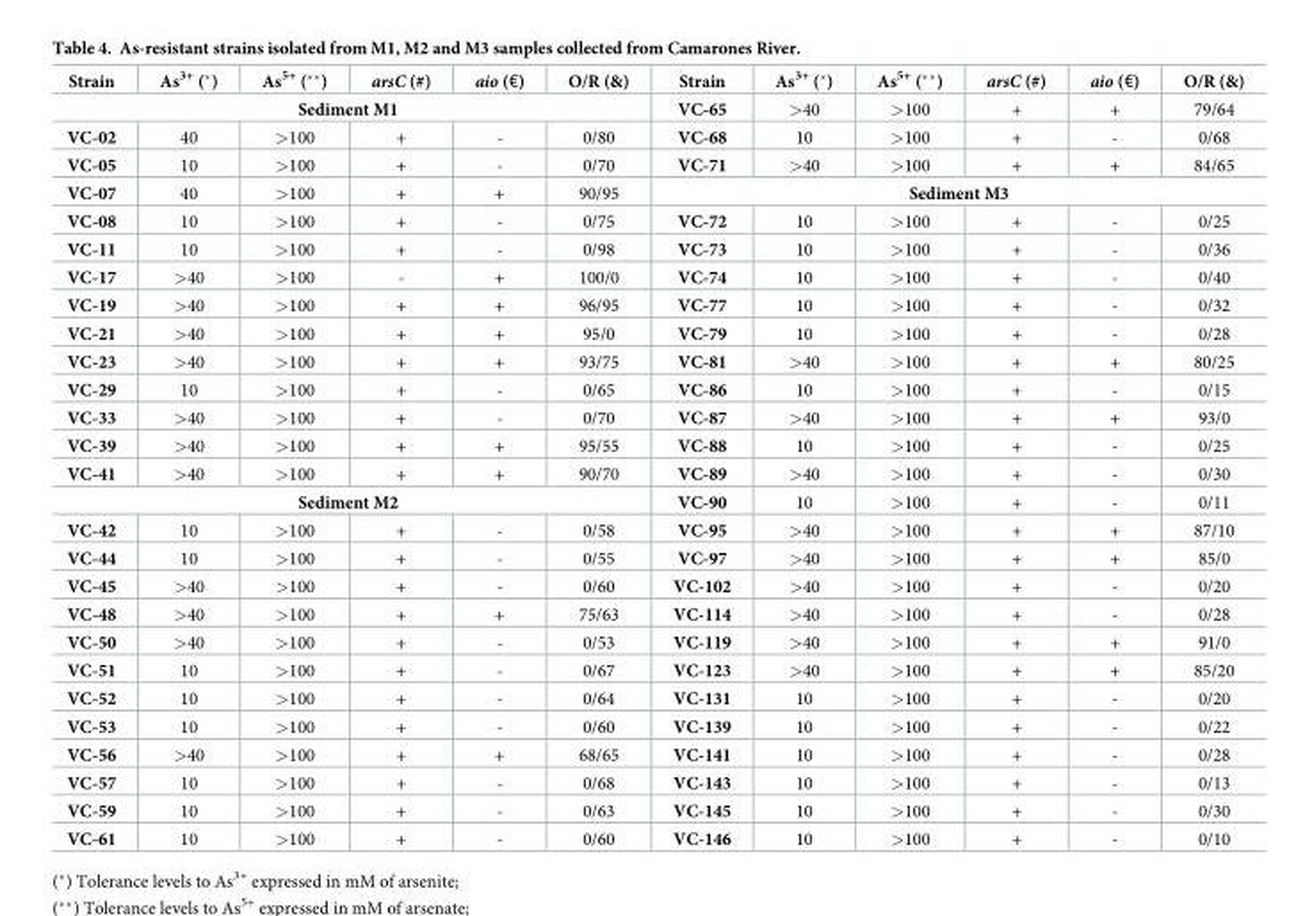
<table><thead><tr><td>Strain</td><td>As<sup>3+</sup> (*)</td><td>As<sup>5+</sup> (**)</td><td>arsC (#)</td><td>aio (€)</td><td>O/R (&amp;)</td><td>Strain</td><td>As<sup>3+</sup> (*)</td><td>As<sup>5+</sup> (**)</td><td>arsC (#)</td><td>aio (€)</td><td>O/R (&amp;)</td></tr></thead><tbody><tr><td colspan="6">Sediment M1</td><td>VC-65</td><td>&gt;40</td><td>&gt;100</td><td>+</td><td>+</td><td>79/64</td></tr><tr><td>VC-02</td><td>40</td><td>&gt;100</td><td>+</td><td>-</td><td>0/80</td><td>VC-68</td><td>10</td><td>&gt;100</td><td>+</td><td>-</td><td>0/68</td></tr><tr><td>VC-05</td><td>10</td><td>&gt;100</td><td>+</td><td>-</td><td>0/70</td><td>VC-71</td><td>&gt;40</td><td>&gt;100</td><td>+</td><td>+</td><td>84/65</td></tr><tr><td>VC-07</td><td>40</td><td>&gt;100</td><td>+</td><td>+</td><td>90/95</td><td colspan="6">Sediment M3</td></tr><tr><td>VC-08</td><td>10</td><td>&gt;100</td><td>+</td><td>-</td><td>0/75</td><td>VC-72</td><td>10</td><td>&gt;100</td><td>+</td><td>-</td><td>0/25</td></tr><tr><td>VC-11</td><td>10</td><td>&gt;100</td><td>+</td><td>-</td><td>0/98</td><td>VC-73</td><td>10</td><td>&gt;100</td><td>+</td><td>-</td><td>0/36</td></tr><tr><td>VC-17</td><td>&gt;40</td><td>&gt;100</td><td>-</td><td>+</td><td>100/0</td><td>VC-74</td><td>10</td><td>&gt;100</td><td>+</td><td>-</td><td>0/40</td></tr><tr><td>VC-19</td><td>&gt;40</td><td>&gt;100</td><td>+</td><td>+</td><td>96/95</td><td>VC-77</td><td>10</td><td>&gt;100</td><td>+</td><td>-</td><td>0/32</td></tr><tr><td>VC-21</td><td>&gt;40</td><td>&gt;100</td><td>+</td><td>+</td><td>95/0</td><td>VC-79</td><td>10</td><td>&gt;100</td><td>+</td><td>-</td><td>0/28</td></tr><tr><td>VC-23</td><td>&gt;40</td><td>&gt;100</td><td>+</td><td>+</td><td>93/75</td><td>VC-81</td><td>&gt;40</td><td>&gt;100</td><td>+</td><td>+</td><td>80/25</td></tr><tr><td>VC-29</td><td>10</td><td>&gt;100</td><td>+</td><td>-</td><td>0/65</td><td>VC-86</td><td>10</td><td>&gt;100</td><td>+</td><td>-</td><td>0/15</td></tr><tr><td>VC-33</td><td>&gt;40</td><td>&gt;100</td><td>+</td><td>-</td><td>0/70</td><td>VC-87</td><td>&gt;40</td><td>&gt;100</td><td>+</td><td>+</td><td>93/0</td></tr><tr><td>VC-39</td><td>&gt;40</td><td>&gt;100</td><td>+</td><td>+</td><td>95/55</td><td>VC-88</td><td>10</td><td>&gt;100</td><td>+</td><td>-</td><td>0/25</td></tr><tr><td>VC-41</td><td>&gt;40</td><td>&gt;100</td><td>+</td><td>+</td><td>90/70</td><td>VC-89</td><td>&gt;40</td><td>&gt;100</td><td>+</td><td>-</td><td>0/30</td></tr><tr><td colspan="6">Sediment M2</td><td>VC-90</td><td>10</td><td>&gt;100</td><td>+</td><td>-</td><td>0/11</td></tr><tr><td>VC-42</td><td>10</td><td>&gt;100</td><td>+</td><td>-</td><td>0/58</td><td>VC-95</td><td>&gt;40</td><td>&gt;100</td><td>+</td><td>+</td><td>87/10</td></tr><tr><td>VC-44</td><td>10</td><td>&gt;100</td><td>+</td><td>-</td><td>0/55</td><td>VC-97</td><td>&gt;40</td><td>&gt;100</td><td>+</td><td>+</td><td>85/0</td></tr><tr><td>VC-45</td><td>&gt;40</td><td>&gt;100</td><td>+</td><td>-</td><td>0/60</td><td>VC-102</td><td>&gt;40</td><td>&gt;100</td><td>+</td><td>-</td><td>0/20</td></tr><tr><td>VC-48</td><td>&gt;40</td><td>&gt;100</td><td>+</td><td>+</td><td>75/63</td><td>VC-114</td><td>&gt;40</td><td>&gt;100</td><td>+</td><td>-</td><td>0/28</td></tr><tr><td>VC-50</td><td>&gt;40</td><td>&gt;100</td><td>+</td><td>-</td><td>0/53</td><td>VC-119</td><td>&gt;40</td><td>&gt;100</td><td>+</td><td>+</td><td>91/0</td></tr><tr><td>VC-51</td><td>10</td><td>&gt;100</td><td>+</td><td>-</td><td>0/67</td><td>VC-123</td><td>&gt;40</td><td>&gt;100</td><td>+</td><td>+</td><td>85/20</td></tr><tr><td>VC-52</td><td>10</td><td>&gt;100</td><td>+</td><td>-</td><td>0/64</td><td>VC-131</td><td>10</td><td>&gt;100</td><td>+</td><td>-</td><td>0/20</td></tr><tr><td>VC-53</td><td>10</td><td>&gt;100</td><td>+</td><td>-</td><td>0/60</td><td>VC-139</td><td>10</td><td>&gt;100</td><td>+</td><td>-</td><td>0/22</td></tr><tr><td>VC-56</td><td>&gt;40</td><td>&gt;100</td><td>+</td><td>+</td><td>68/65</td><td>VC-141</td><td>10</td><td>&gt;100</td><td>+</td><td>-</td><td>0/28</td></tr><tr><td>VC-57</td><td>10</td><td>&gt;100</td><td>+</td><td>-</td><td>0/68</td><td>VC-143</td><td>10</td><td>&gt;100</td><td>+</td><td>-</td><td>0/13</td></tr><tr><td>VC-59</td><td>10</td><td>&gt;100</td><td>+</td><td>-</td><td>0/63</td><td>VC-145</td><td>10</td><td>&gt;100</td><td>+</td><td>-</td><td>0/30</td></tr><tr><td>VC-61</td><td>10</td><td>&gt;100</td><td>+</td><td>-</td><td>0/60</td><td>VC-146</td><td>10</td><td>&gt;100</td><td>+</td><td>-</td><td>0/10</td></tr></tbody></table>